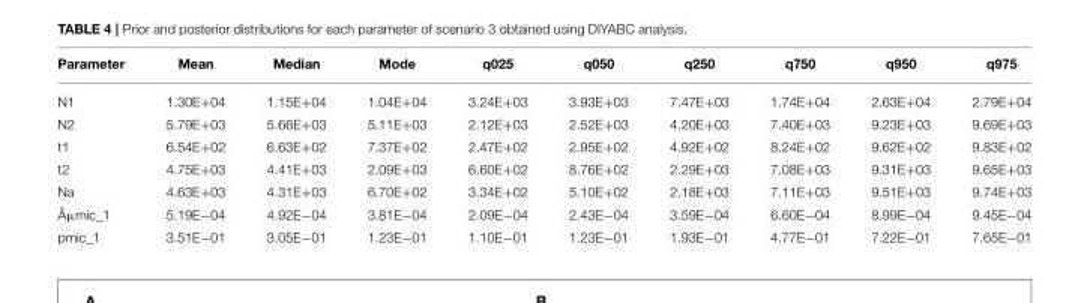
<table><thead><tr><td>Parameter</td><td>Mean</td><td>Median</td><td>Mode</td><td>q025</td><td>q050</td><td>q250</td><td>q750</td><td>q950</td><td>q975</td></tr></thead><tbody><tr><td>N1</td><td>1.30E+04</td><td>1.15E+04</td><td>1.04E+04</td><td>3.24E+03</td><td>3.93E+03</td><td>7.47E+03</td><td>1.74E+04</td><td>2.63E+04</td><td>2.79E+04</td></tr><tr><td>N2</td><td>5.79E+03</td><td>5.66E+03</td><td>5.11E+03</td><td>2.12E+03</td><td>2.52E+03</td><td>4.20E+03</td><td>7.40E+03</td><td>9.23E+03</td><td>9.69E+03</td></tr><tr><td>t1</td><td>6.54E+02</td><td>6.63E+02</td><td>7.37E+02</td><td>2.47E+02</td><td>2.95E+02</td><td>4.92E+02</td><td>8.24E+02</td><td>9.62E+02</td><td>9.83E+02</td></tr><tr><td>t2</td><td>4.75E+03</td><td>4.41E+03</td><td>2.09E+03</td><td>6.60E+02</td><td>8.76E+02</td><td>2.29E+03</td><td>7.08E+03</td><td>9.31E+03</td><td>9.65E+03</td></tr><tr><td>Na</td><td>4.63E+03</td><td>4.31E+03</td><td>6.70E+02</td><td>3.34E+02</td><td>5.10E+02</td><td>2.18E+03</td><td>7.11E+03</td><td>9.51E+03</td><td>9.74E+03</td></tr><tr><td>Âµmic_1</td><td>5.19E−04</td><td>4.92E−04</td><td>3.81E−04</td><td>2.09E−04</td><td>2.43E−04</td><td>3.59E−04</td><td>6.60E−04</td><td>8.99E−04</td><td>9.45E−04</td></tr><tr><td>pmic_1</td><td>3.51E−01</td><td>3.05E−01</td><td>1.23E−01</td><td>1.10E−01</td><td>1.23E−01</td><td>1.93E−01</td><td>4.77E−01</td><td>7.22E−01</td><td>7.65E−01</td></tr></tbody></table>